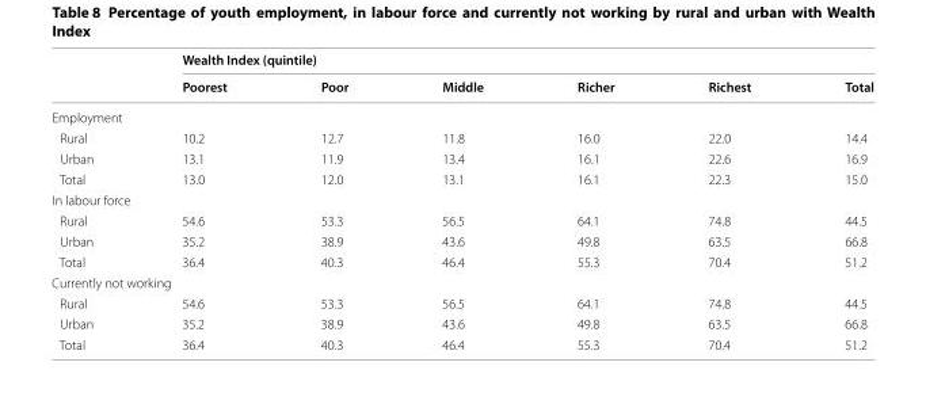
<table><thead><tr><td rowspan="2"></td><td colspan="6">Wealth Index (quintile)</td></tr><tr><td>Poorest</td><td>Poor</td><td>Middle</td><td>Richer</td><td>Richest</td><td>Total</td></tr></thead><tbody><tr><td colspan="7">Employment</td></tr><tr><td>Rural</td><td>10.2</td><td>12.7</td><td>11.8</td><td>16.0</td><td>22.0</td><td>14.4</td></tr><tr><td>Urban</td><td>13.1</td><td>11.9</td><td>13.4</td><td>16.1</td><td>22.6</td><td>16.9</td></tr><tr><td>Total</td><td>13.0</td><td>12.0</td><td>13.1</td><td>16.1</td><td>22.3</td><td>15.0</td></tr><tr><td colspan="7">In labour force</td></tr><tr><td>Rural</td><td>54.6</td><td>53.3</td><td>56.5</td><td>64.1</td><td>74.8</td><td>44.5</td></tr><tr><td>Urban</td><td>35.2</td><td>38.9</td><td>43.6</td><td>49.8</td><td>63.5</td><td>66.8</td></tr><tr><td>Total</td><td>36.4</td><td>40.3</td><td>46.4</td><td>55.3</td><td>70.4</td><td>51.2</td></tr><tr><td colspan="7">Currently not working</td></tr><tr><td>Rural</td><td>54.6</td><td>53.3</td><td>56.5</td><td>64.1</td><td>74.8</td><td>44.5</td></tr><tr><td>Urban</td><td>35.2</td><td>38.9</td><td>43.6</td><td>49.8</td><td>63.5</td><td>66.8</td></tr><tr><td>Total</td><td>36.4</td><td>40.3</td><td>46.4</td><td>55.3</td><td>70.4</td><td>51.2</td></tr></tbody></table>